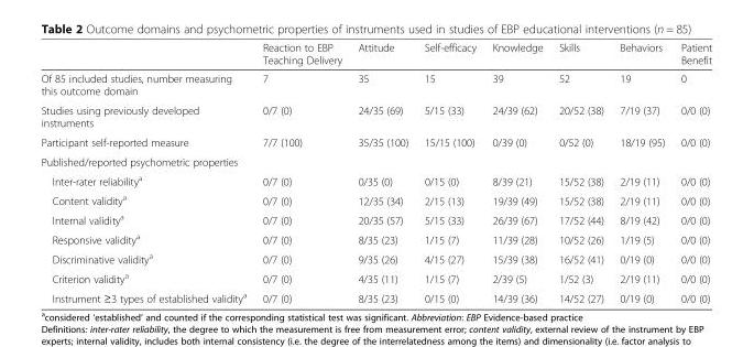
<table><thead><tr><td></td><td>Reaction to EBP Teaching Delivery</td><td>Attitude</td><td>Self-efficacy</td><td>Knowledge</td><td>Skills</td><td>Behaviors</td><td>Patient Benefit</td></tr></thead><tbody><tr><td>Of 85 included studies, number measuring this outcome domain</td><td>7</td><td>35</td><td>15</td><td>39</td><td>52</td><td>19</td><td>0</td></tr><tr><td>Studies using previously developed instruments</td><td>0/7 (0)</td><td>24/35 (69)</td><td>5/15 (33)</td><td>24/39 (62)</td><td>20/52 (38)</td><td>7/19 (37)</td><td>0/0 (0)</td></tr><tr><td>Participant self-reported measure</td><td>7/7 (100)</td><td>35/35 (100)</td><td>15/15 (100)</td><td>0/39 (0)</td><td>0/52 (0)</td><td>18/19 (95)</td><td>0/0 (0)</td></tr><tr><td colspan="8">Published/reported psychometric properties</td></tr><tr><td>Inter-rater reliability<sup>a</sup></td><td>0/7 (0)</td><td>0/35 (0)</td><td>0/15 (0)</td><td>8/39 (21)</td><td>15/52 (38)</td><td>2/19 (11)</td><td>0/0 (0)</td></tr><tr><td>Content validity<sup>a</sup></td><td>0/7 (0)</td><td>12/35 (34)</td><td>2/15 (13)</td><td>19/39 (49)</td><td>15/52 (38)</td><td>2/19 (11)</td><td>0/0 (0)</td></tr><tr><td>Internal validity<sup>a</sup></td><td>0/7 (0)</td><td>20/35 (57)</td><td>5/15 (33)</td><td>26/39 (67)</td><td>17/52 (44)</td><td>8/19 (42)</td><td>0/0 (0)</td></tr><tr><td>Responsive validity<sup>a</sup></td><td>0/7 (0)</td><td>8/35 (23)</td><td>1/15 (7)</td><td>11/39 (28)</td><td>10/52 (26)</td><td>1/19 (5)</td><td>0/0 (0)</td></tr><tr><td>Discriminative validity<sup>a</sup></td><td>0/7 (0)</td><td>9/35 (26)</td><td>4/15 (27)</td><td>15/39 (38)</td><td>16/52 (41)</td><td>0/19 (0)</td><td>0/0 (0)</td></tr><tr><td>Criterion validity<sup>a</sup></td><td>0/7 (0)</td><td>4/35 (11)</td><td>1/15 (7)</td><td>2/39 (5)</td><td>1/52 (3)</td><td>2/19 (11)</td><td>0/0 (0)</td></tr><tr><td>Instrument ≥3 types of established validity<sup>a</sup></td><td>0/7 (0)</td><td>8/35 (23)</td><td>0/15 (0)</td><td>14/39 (36)</td><td>14/52 (27)</td><td>0/19 (0)</td><td>0/0 (0)</td></tr></tbody></table>